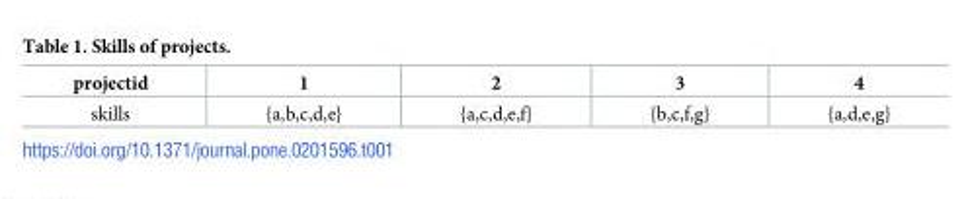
<table><thead><tr><td>projectid</td><td>1</td><td>2</td><td>3</td><td>4</td></tr></thead><tbody><tr><td>skills</td><td>{a,b,c,d,e}</td><td>{a,c,d,e,f}</td><td>{b,c,f,g}</td><td>{a,d,e,g}</td></tr></tbody></table>